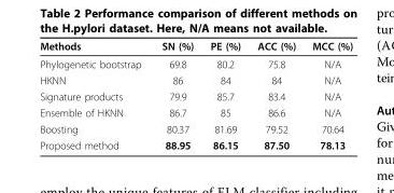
<table><thead><tr><td>Methods</td><td>SN (%)</td><td>PE (%)</td><td>ACC (%)</td><td>MCC (%)</td></tr></thead><tbody><tr><td>Phylogenetic bootstrap</td><td>69.8</td><td>80.2</td><td>75.8</td><td>N/A</td></tr><tr><td>HKNN</td><td>86</td><td>84</td><td>84</td><td>N/A</td></tr><tr><td>Signature products</td><td>79.9</td><td>85.7</td><td>83.4</td><td>N/A</td></tr><tr><td>Ensemble of HKNN</td><td>86.7</td><td>85</td><td>86.6</td><td>N/A</td></tr><tr><td>Boosting</td><td>80.37</td><td>81.69</td><td>79.52</td><td>70.64</td></tr><tr><td>Proposed method</td><td>88.95</td><td>86.15</td><td>87.50</td><td>78.13</td></tr></tbody></table>